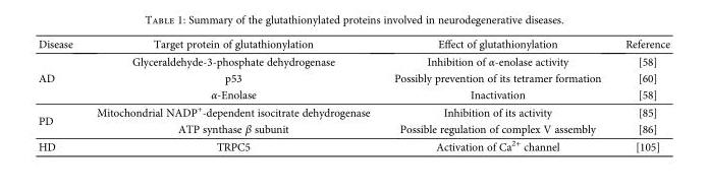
<table><thead><tr><td>Disease</td><td>Target protein of glutathionylation</td><td>Effect of glutathionylation</td><td>Reference</td></tr></thead><tbody><tr><td rowspan="3">AD</td><td>Glyceraldehyde-3-phosphate dehydrogenase</td><td>Inhibition of α-enolase activity</td><td>[58]</td></tr><tr><td>p53</td><td>Possibly prevention of its tetramer formation</td><td>[60]</td></tr><tr><td>α-Enolase</td><td>Inactivation</td><td>[58]</td></tr><tr><td rowspan="2">PD</td><td>Mitochondrial NADP<sup>+</sup>-dependent isocitrate dehydrogenase</td><td>Inhibition of its activity</td><td>[85]</td></tr><tr><td>ATP synthase β subunit</td><td>Possible regulation of complex V assembly</td><td>[86]</td></tr><tr><td>HD</td><td>TRPC5</td><td>Activation of Ca<sup>2+</sup> channel</td><td>[105]</td></tr></tbody></table>